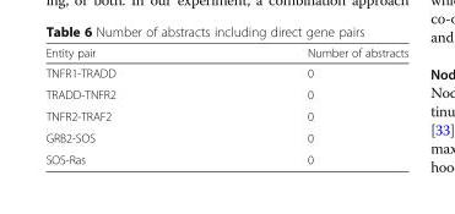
<table><thead><tr><td>Entity pair</td><td>Number of abstracts</td></tr></thead><tbody><tr><td>TNFR1-TRADD</td><td>0</td></tr><tr><td>TRADD-TNFR2</td><td>0</td></tr><tr><td>TNFR2-TRAF2</td><td>0</td></tr><tr><td>GRB2-SOS</td><td>0</td></tr><tr><td>SOS-Ras</td><td>0</td></tr></tbody></table>